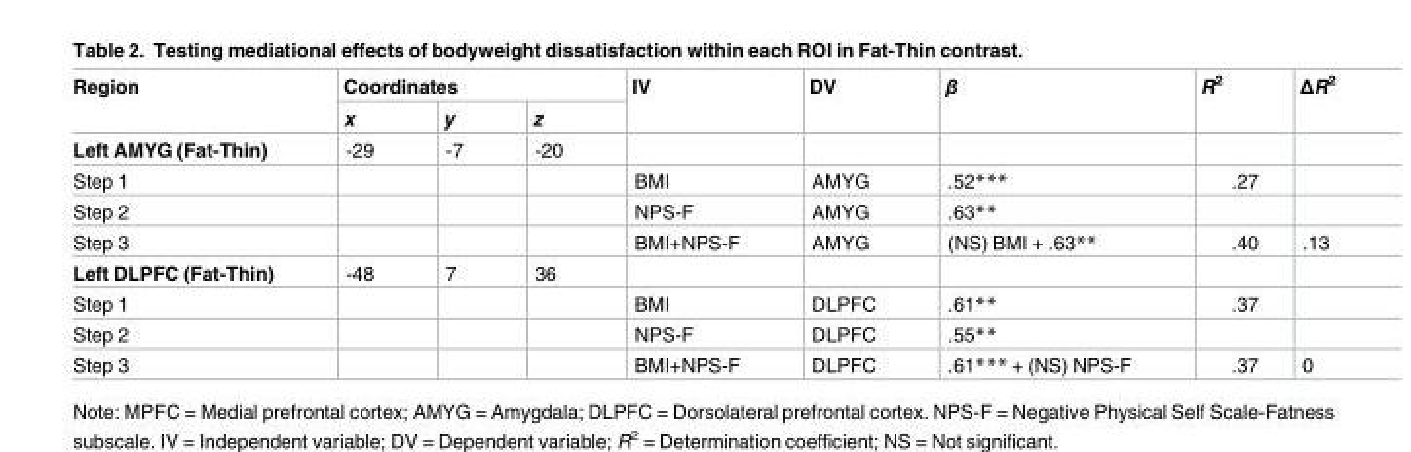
<table><thead><tr><td rowspan="2">Region</td><td colspan="3">Coordinates</td><td rowspan="2">IV</td><td rowspan="2">DV</td><td rowspan="2">β</td><td rowspan="2">R<sup>2</sup></td><td rowspan="2">ΔR<sup>2</sup></td></tr><tr><td>x</td><td>y</td><td>z</td></tr></thead><tbody><tr><td>Left AMYG (Fat-Thin)</td><td>-29</td><td>-7</td><td>-20</td><td></td><td></td><td></td><td></td><td></td></tr><tr><td>Step 1</td><td></td><td></td><td></td><td>BMI</td><td>AMYG</td><td>.52***</td><td>.27</td><td></td></tr><tr><td>Step 2</td><td></td><td></td><td></td><td>NPS-F</td><td>AMYG</td><td>.63**</td><td></td><td></td></tr><tr><td>Step 3</td><td></td><td></td><td></td><td>BMI+NPS-F</td><td>AMYG</td><td>(NS) BMI + .63**</td><td>.40</td><td>.13</td></tr><tr><td>Left DLPFC (Fat-Thin)</td><td>-48</td><td>7</td><td>36</td><td></td><td></td><td></td><td></td><td></td></tr><tr><td>Step 1</td><td></td><td></td><td></td><td>BMI</td><td>DLPFC</td><td>.61**</td><td>.37</td><td></td></tr><tr><td>Step 2</td><td></td><td></td><td></td><td>NPS-F</td><td>DLPFC</td><td>.55**</td><td></td><td></td></tr><tr><td>Step 3</td><td></td><td></td><td></td><td>BMI+NPS-F</td><td>DLPFC</td><td>.61*** + (NS) NPS-F</td><td>.37</td><td>0</td></tr></tbody></table>